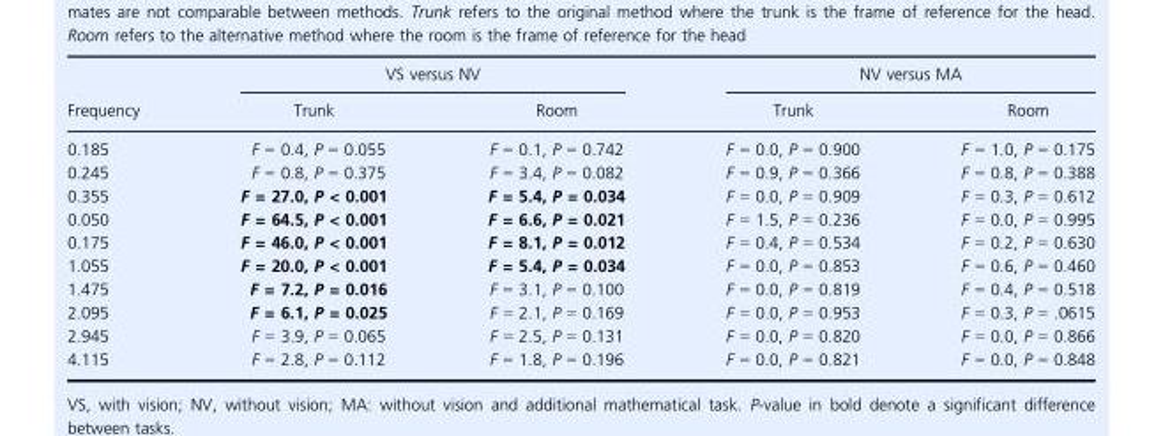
<table><thead><tr><td rowspan="2">Frequency</td><td colspan="2">VS versus NV</td><td colspan="2">NV versus MA</td></tr><tr><td>Trunk</td><td>Room</td><td>Trunk</td><td>Room</td></tr></thead><tbody><tr><td>0.185</td><td>F = 0.4, P = 0.055</td><td>F = 0.1, P = 0.742</td><td>F = 0.0, P = 0.900</td><td>F = 1.0, P = 0.175</td></tr><tr><td>0.245</td><td>F = 0.8, P = 0.375</td><td>F = 3.4, P = 0.082</td><td>F = 0.9, P = 0.366</td><td>F = 0.8, P = 0.388</td></tr><tr><td>0.355</td><td>F = 27.0, P &lt; 0.001</td><td>F = 5.4, P = 0.034</td><td>F = 0.0, P = 0.909</td><td>F = 0.3, P = 0.612</td></tr><tr><td>0.050</td><td>F = 64.5, P &lt; 0.001</td><td>F = 6.6, P = 0.021</td><td>F = 1.5, P = 0.236</td><td>F = 0.0, P = 0.995</td></tr><tr><td>0.175</td><td>F = 46.0, P &lt; 0.001</td><td>F = 8.1, P = 0.012</td><td>F = 0.4, P = 0.534</td><td>F = 0.2, P = 0.630</td></tr><tr><td>1.055</td><td>F = 20.0, P &lt; 0.001</td><td>F = 5.4, P = 0.034</td><td>F = 0.0, P = 0.853</td><td>F = 0.6, P = 0.460</td></tr><tr><td>1.475</td><td>F = 7.2, P = 0.016</td><td>F = 3.1, P = 0.100</td><td>F = 0.0, P = 0.819</td><td>F = 0.4, P = 0.518</td></tr><tr><td>2.095</td><td>F = 6.1, P = 0.025</td><td>F = 2.1, P = 0.169</td><td>F = 0.0, P = 0.953</td><td>F = 0.3, P = .0615</td></tr><tr><td>2.945</td><td>F = 3.9, P = 0.065</td><td>F = 2.5, P = 0.131</td><td>F = 0.0, P = 0.820</td><td>F = 0.0, P = 0.866</td></tr><tr><td>4.115</td><td>F = 2.8, P = 0.112</td><td>F = 1.8, P = 0.196</td><td>F = 0.0, P = 0.821</td><td>F = 0.0, P = 0.848</td></tr></tbody></table>